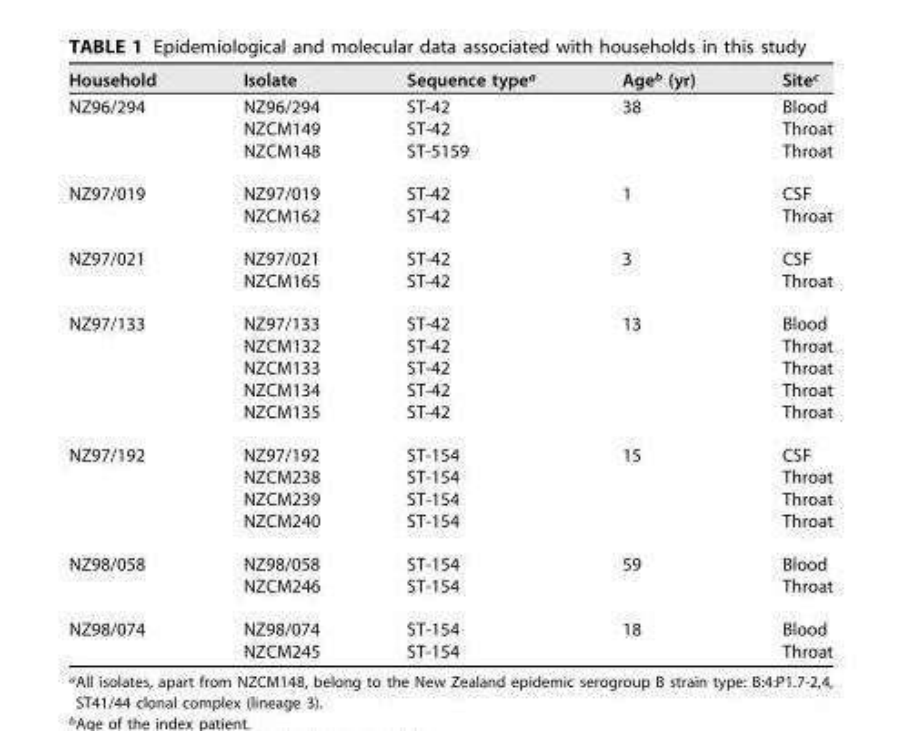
<table><thead><tr><td>Household</td><td>Isolate</td><td>Sequence type<sup>a</sup></td><td>Age<sup>b</sup> (yr)</td><td>Site<sup>c</sup></td></tr></thead><tbody><tr><td rowspan="3">NZ96/294</td><td>NZ96/294</td><td>ST-42</td><td>38</td><td>Blood</td></tr><tr><td>NZCM149</td><td>ST-42</td><td></td><td>Throat</td></tr><tr><td>NZCM148</td><td>ST-5159</td><td></td><td>Throat</td></tr><tr><td rowspan="2">NZ97/019</td><td>NZ97/019</td><td>ST-42</td><td>1</td><td>CSF</td></tr><tr><td>NZCM162</td><td>ST-42</td><td></td><td>Throat</td></tr><tr><td rowspan="2">NZ97/021</td><td>NZ97/021</td><td>ST-42</td><td>3</td><td>CSF</td></tr><tr><td>NZCM165</td><td>ST-42</td><td></td><td>Throat</td></tr><tr><td rowspan="5">NZ97/133</td><td>NZ97/133</td><td>ST-42</td><td>13</td><td>Blood</td></tr><tr><td>NZCM132</td><td>ST-42</td><td></td><td>Throat</td></tr><tr><td>NZCM133</td><td>ST-42</td><td></td><td>Throat</td></tr><tr><td>NZCM134</td><td>ST-42</td><td></td><td>Throat</td></tr><tr><td>NZCM135</td><td>ST-42</td><td></td><td>Throat</td></tr><tr><td rowspan="4">NZ97/192</td><td>NZ97/192</td><td>ST-154</td><td>15</td><td>CSF</td></tr><tr><td>NZCM238</td><td>ST-154</td><td></td><td>Throat</td></tr><tr><td>NZCM239</td><td>ST-154</td><td></td><td>Throat</td></tr><tr><td>NZCM240</td><td>ST-154</td><td></td><td>Throat</td></tr><tr><td rowspan="2">NZ98/058</td><td>NZ98/058</td><td>ST-154</td><td>59</td><td>Blood</td></tr><tr><td>NZCM246</td><td>ST-154</td><td></td><td>Throat</td></tr><tr><td rowspan="2">NZ98/074</td><td>NZ98/074</td><td>ST-154</td><td>18</td><td>Blood</td></tr><tr><td>NZCM245</td><td>ST-154</td><td></td><td>Throat</td></tr></tbody></table>